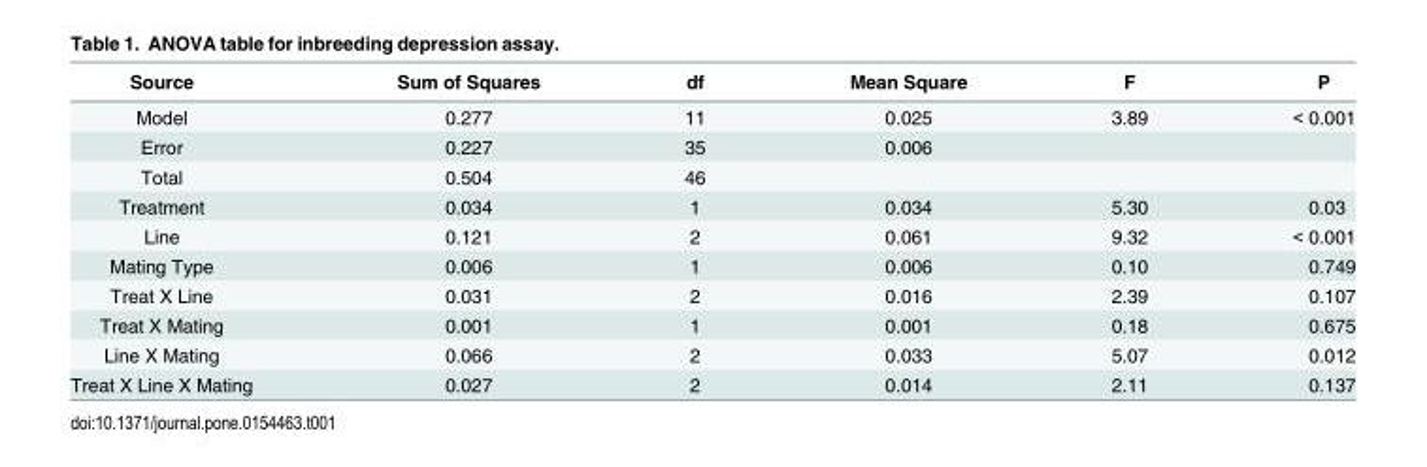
<table><thead><tr><td>Source</td><td>Sum of Squares</td><td>df</td><td>Mean Square</td><td>F</td><td>P</td></tr></thead><tbody><tr><td>Model</td><td>0.277</td><td>11</td><td>0.025</td><td>3.89</td><td>&lt; 0.001</td></tr><tr><td>Error</td><td>0.227</td><td>35</td><td>0.006</td><td></td><td></td></tr><tr><td>Total</td><td>0.504</td><td>46</td><td></td><td></td><td></td></tr><tr><td>Treatment</td><td>0.034</td><td>1</td><td>0.034</td><td>5.30</td><td>0.03</td></tr><tr><td>Line</td><td>0.121</td><td>2</td><td>0.061</td><td>9.32</td><td>&lt; 0.001</td></tr><tr><td>Mating Type</td><td>0.006</td><td>1</td><td>0.006</td><td>0.10</td><td>0.749</td></tr><tr><td>Treat X Line</td><td>0.031</td><td>2</td><td>0.016</td><td>2.39</td><td>0.107</td></tr><tr><td>Treat X Mating</td><td>0.001</td><td>1</td><td>0.001</td><td>0.18</td><td>0.675</td></tr><tr><td>Line X Mating</td><td>0.066</td><td>2</td><td>0.033</td><td>5.07</td><td>0.012</td></tr><tr><td>Treat X Line X Mating</td><td>0.027</td><td>2</td><td>0.014</td><td>2.11</td><td>0.137</td></tr></tbody></table>